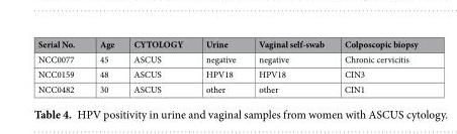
<table><thead><tr><td>Serial No.</td><td>Age</td><td>CYTOLOGY</td><td>Urine</td><td>Vaginal self-swab</td><td>Colposcopic biopsy</td></tr></thead><tbody><tr><td>NCC0077</td><td>45</td><td>ASCUS</td><td>negative</td><td>negative</td><td>Chronic cervicitis</td></tr><tr><td>NCC0159</td><td>48</td><td>ASCUS</td><td>HPV18</td><td>HPV18</td><td>CIN3</td></tr><tr><td>NCC0482</td><td>30</td><td>ASCUS</td><td>other</td><td>other</td><td>CIN1</td></tr></tbody></table>